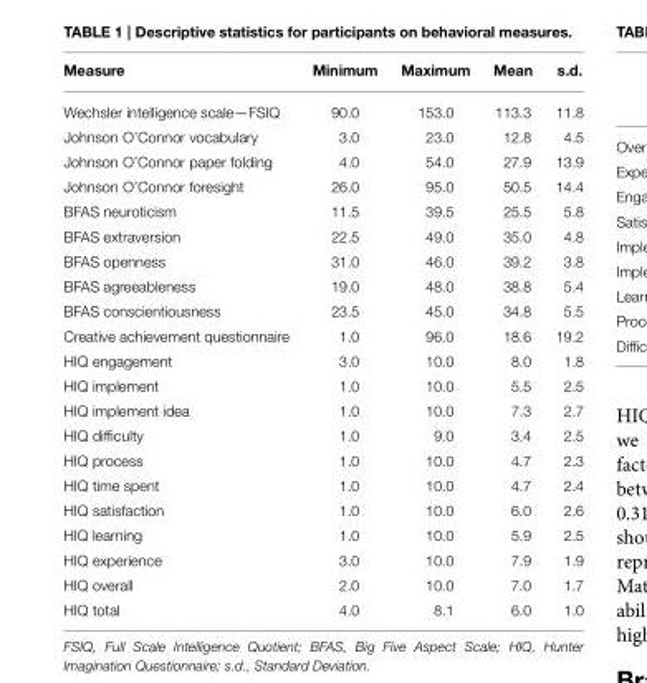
<table><thead><tr><td>Measure</td><td>Minimum</td><td>Maximum</td><td>Mean</td><td>s.d.</td></tr></thead><tbody><tr><td>Wechsler intelligence scale—FSIQ</td><td>90.0</td><td>153.0</td><td>113.3</td><td>11.8</td></tr><tr><td>Johnson O’Connor vocabulary</td><td>3.0</td><td>23.0</td><td>12.8</td><td>4.5</td></tr><tr><td>Johnson O’Connor paper folding</td><td>4.0</td><td>54.0</td><td>27.9</td><td>13.9</td></tr><tr><td>Johnson O’Connor foresight</td><td>26.0</td><td>95.0</td><td>50.5</td><td>14.4</td></tr><tr><td>BFAS neuroticism</td><td>11.5</td><td>39.5</td><td>25.5</td><td>5.8</td></tr><tr><td>BFAS extraversion</td><td>22.5</td><td>49.0</td><td>35.0</td><td>4.8</td></tr><tr><td>BFAS openness</td><td>31.0</td><td>46.0</td><td>39.2</td><td>3.8</td></tr><tr><td>BFAS agreeableness</td><td>19.0</td><td>48.0</td><td>38.8</td><td>5.4</td></tr><tr><td>BFAS conscientiousness</td><td>23.5</td><td>45.0</td><td>34.8</td><td>5.5</td></tr><tr><td>Creative achievement questionnaire</td><td>1.0</td><td>96.0</td><td>18.6</td><td>19.2</td></tr><tr><td>HIQ engagement</td><td>3.0</td><td>10.0</td><td>8.0</td><td>1.8</td></tr><tr><td>HIQ implement</td><td>1.0</td><td>10.0</td><td>5.5</td><td>2.5</td></tr><tr><td>HIQ implement idea</td><td>1.0</td><td>10.0</td><td>7.3</td><td>2.7</td></tr><tr><td>HIQ difficulty</td><td>1.0</td><td>9.0</td><td>3.4</td><td>2.5</td></tr><tr><td>HIQ process</td><td>1.0</td><td>10.0</td><td>4.7</td><td>2.3</td></tr><tr><td>HIQ time spent</td><td>1.0</td><td>10.0</td><td>4.7</td><td>2.4</td></tr><tr><td>HIQ satisfaction</td><td>1.0</td><td>10.0</td><td>6.0</td><td>2.6</td></tr><tr><td>HIQ learning</td><td>1.0</td><td>10.0</td><td>5.9</td><td>2.5</td></tr><tr><td>HIQ experience</td><td>3.0</td><td>10.0</td><td>7.9</td><td>1.9</td></tr><tr><td>HIQ overall</td><td>2.0</td><td>10.0</td><td>7.0</td><td>1.7</td></tr><tr><td>HIQ total</td><td>4.0</td><td>8.1</td><td>6.0</td><td>1.0</td></tr></tbody></table>